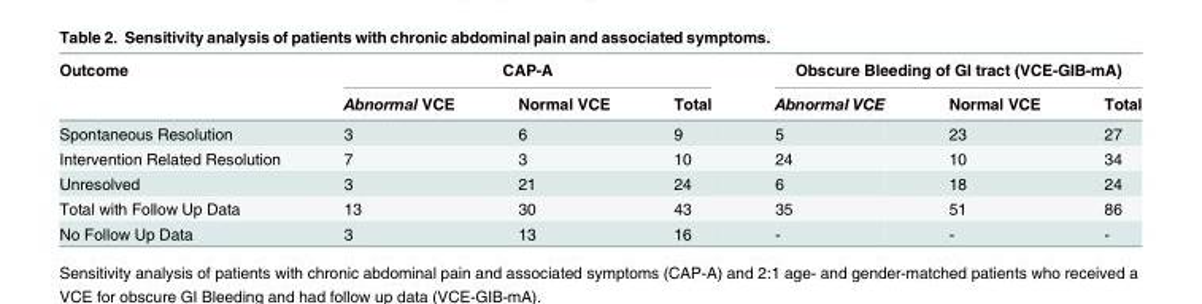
<table><thead><tr><td rowspan="2">Outcome</td><td colspan="3">CAP-A</td><td colspan="3">Obscure Bleeding of GI tract (VCE-GIB-mA)</td></tr><tr><td>Abnormal VCE</td><td>Normal VCE</td><td>Total</td><td>Abnormal VCE</td><td>Normal VCE</td><td>Total</td></tr></thead><tbody><tr><td>Spontaneous Resolution</td><td>3</td><td>6</td><td>9</td><td>5</td><td>23</td><td>27</td></tr><tr><td>Intervention Related Resolution</td><td>7</td><td>3</td><td>10</td><td>24</td><td>10</td><td>34</td></tr><tr><td>Unresolved</td><td>3</td><td>21</td><td>24</td><td>6</td><td>18</td><td>24</td></tr><tr><td>Total with Follow Up Data</td><td>13</td><td>30</td><td>43</td><td>35</td><td>51</td><td>86</td></tr><tr><td>No Follow Up Data</td><td>3</td><td>13</td><td>16</td><td>-</td><td>-</td><td>-</td></tr></tbody></table>